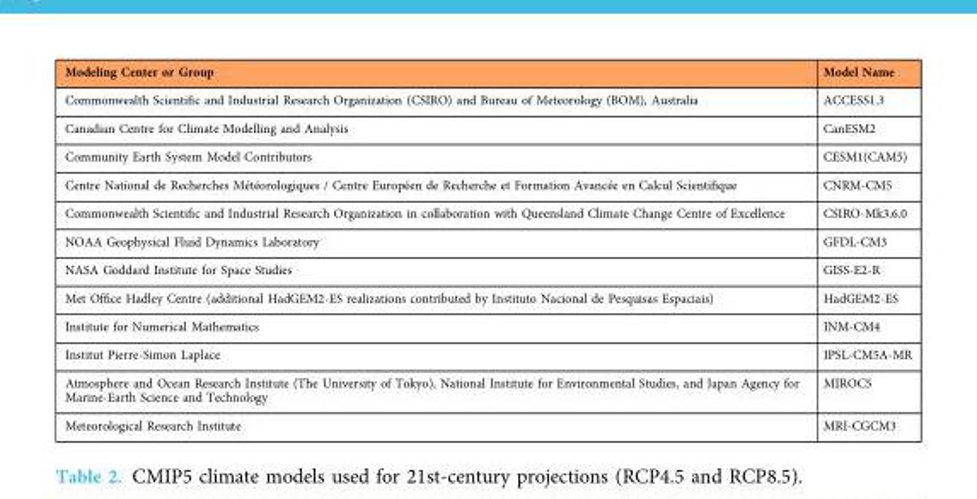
<table><thead><tr><td>Modeling Center or Group</td><td>Model Name</td></tr></thead><tbody><tr><td>Commonwealth Scientific and Industrial Research Organization (CSIRO) and Bureau of Meteorology (BOM), Australia</td><td>ACCESS1.3</td></tr><tr><td>Canadian Centre for Climate Modelling and Analysis</td><td>CanESM2</td></tr><tr><td>Community Earth System Model Contributors</td><td>CESM1(CAM5)</td></tr><tr><td>Centre National de Recherches Météorologiques / Centre Européen de Recherche et Formation Avancée en Calcul Scientifique</td><td>CNRM-CM5</td></tr><tr><td>Commonwealth Scientific and Industrial Research Organization in collaboration with Queensland Climate Change Centre of Excellence</td><td>CSIRO-Mk3.6.0</td></tr><tr><td>NOAA Geophysical Fluid Dynamics Laboratory</td><td>GFDL-CM3</td></tr><tr><td>NASA Goddard Institute for Space Studies</td><td>GISS-E2-R</td></tr><tr><td>Met Office Hadley Centre (additional HadGEM2-ES realizations contributed by Instituto Nacional de Pesquisas Espaciais)</td><td>HadGEM2-ES</td></tr><tr><td>Institute for Numerical Mathematics</td><td>INM-CM4</td></tr><tr><td>Institut Pierre-Simon Laplace</td><td>IPSL-CM5A-MR</td></tr><tr><td>Atmosphere and Ocean Research Institute (The University of Tokyo), National Institute for Environmental Studies, and Japan Agency for Marine-Earth Science and Technology</td><td>MIROC5</td></tr><tr><td>Meteorological Research Institute</td><td>MRI-CGCM3</td></tr></tbody></table>